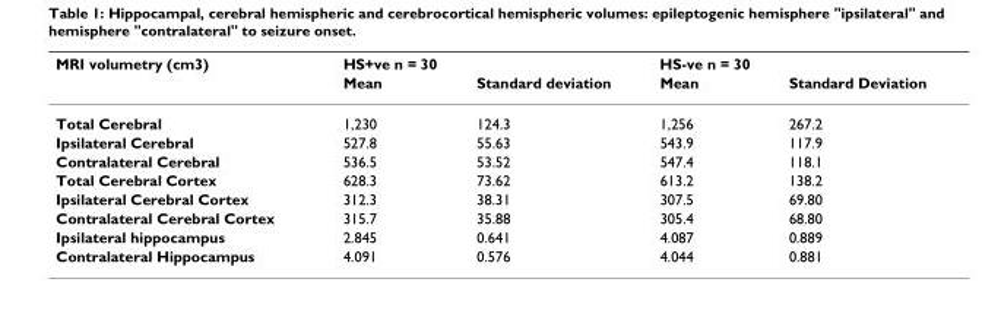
<table><thead><tr><td rowspan="2">MRI volumetry (cm3)</td><td rowspan="2">HS+ve n = 30 Mean</td><td rowspan="2">Standard deviation</td><td rowspan="2">HS-ve n = 30 Mean</td><td rowspan="2">Standard Deviation</td></tr><tr></tr></thead><tbody><tr><td>Total Cerebral</td><td>1,230</td><td>124.3</td><td>1,256</td><td>267.2</td></tr><tr><td>Ipsilateral Cerebral</td><td>527.8</td><td>55.63</td><td>543.9</td><td>117.9</td></tr><tr><td>Contralateral Cerebral</td><td>536.5</td><td>53.52</td><td>547.4</td><td>118.1</td></tr><tr><td>Total Cerebral Cortex</td><td>628.3</td><td>73.62</td><td>613.2</td><td>138.2</td></tr><tr><td>Ipsilateral Cerebral Cortex</td><td>312.3</td><td>38.31</td><td>307.5</td><td>69.80</td></tr><tr><td>Contralateral Cerebral Cortex</td><td>315.7</td><td>35.88</td><td>305.4</td><td>68.80</td></tr><tr><td>Ipsilateral hippocampus</td><td>2.845</td><td>0.641</td><td>4.087</td><td>0.889</td></tr><tr><td>Contralateral Hippocampus</td><td>4.091</td><td>0.576</td><td>4.044</td><td>0.881</td></tr></tbody></table>